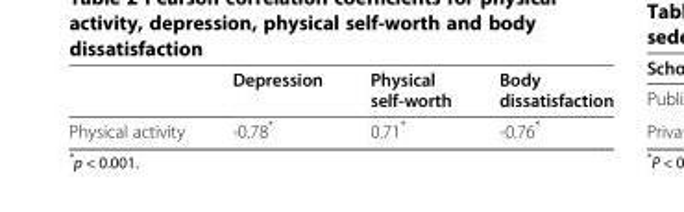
<table><thead><tr><td></td><td>Depression</td><td>Physical self-worth</td><td>Body dissatisfaction</td></tr></thead><tbody><tr><td>Physical activity</td><td>-0.78*</td><td>0.71*</td><td>-0.76*</td></tr></tbody></table>